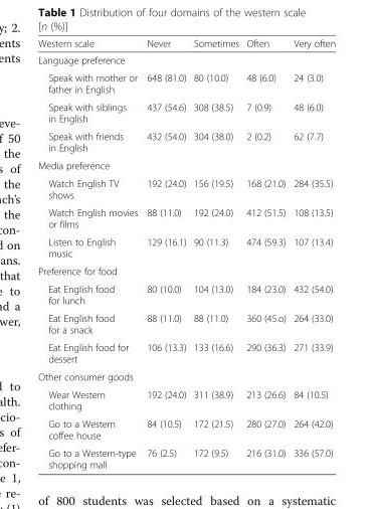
<table><thead><tr><td>Western scale</td><td>Never</td><td>Sometimes</td><td>Often</td><td>Very often</td></tr></thead><tbody><tr><td colspan="5">Language preference</td></tr><tr><td>Speak with mother or father in English</td><td>648 (81.0)</td><td>80 (10.0)</td><td>48 (6.0)</td><td>24 (3.0)</td></tr><tr><td>Speak with siblings in English</td><td>437 (54.6)</td><td>308 (38.5)</td><td>7 (0.9)</td><td>48 (6.0)</td></tr><tr><td>Speak with friends in English</td><td>432 (54.0)</td><td>304 (38.0)</td><td>2 (0.2)</td><td>62 (7.7)</td></tr><tr><td colspan="5">Media preference</td></tr><tr><td>Watch English TV shows</td><td>192 (24.0)</td><td>156 (19.5)</td><td>168 (21.0)</td><td>284 (35.5)</td></tr><tr><td>Watch English movies or films</td><td>88 (11.0)</td><td>192 (24.0)</td><td>412 (51.5)</td><td>108 (13.5)</td></tr><tr><td>Listen to English music</td><td>129 (16.1)</td><td>90 (11.3)</td><td>474 (59.3)</td><td>107 (13.4)</td></tr><tr><td colspan="5">Preference for food</td></tr><tr><td>Eat English food for lunch</td><td>80 (10.0)</td><td>104 (13.0)</td><td>184 (23.0)</td><td>432 (54.0)</td></tr><tr><td>Eat English food for a snack</td><td>88 (11.0)</td><td>88 (11.0)</td><td>360 (45.o)</td><td>264 (33.0)</td></tr><tr><td>Eat English food for dessert</td><td>106 (13.3)</td><td>133 (16.6)</td><td>290 (36.3)</td><td>271 (33.9)</td></tr><tr><td colspan="5">Other consumer goods</td></tr><tr><td>Wear Western clothing</td><td>192 (24.0)</td><td>311 (38.9)</td><td>213 (26.6)</td><td>84 (10.5)</td></tr><tr><td>Go to a Western coffee house</td><td>84 (10.5)</td><td>172 (21.5)</td><td>280 (27.0)</td><td>264 (42.0)</td></tr><tr><td>Go to a Western-type shopping mall</td><td>76 (2.5)</td><td>172 (9.5)</td><td>216 (31.0)</td><td>336 (57.0)</td></tr></tbody></table>